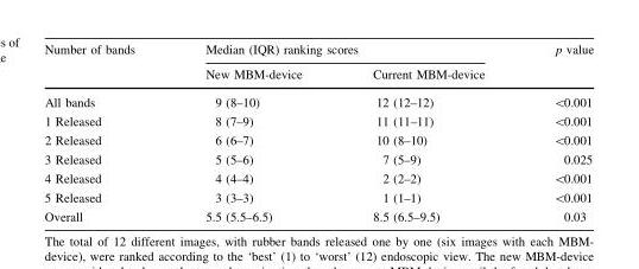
<table><thead><tr><td rowspan="2">Number of bands</td><td colspan="2">Median (IQR) ranking scores</td><td rowspan="2">p value</td></tr><tr><td>New MBM-device</td><td>Current MBM-device</td></tr></thead><tbody><tr><td>All bands</td><td>9 (8–10)</td><td>12 (12–12)</td><td>&lt;0.001</td></tr><tr><td>1 Released</td><td>8 (7–9)</td><td>11 (11–11)</td><td>&lt;0.001</td></tr><tr><td>2 Released</td><td>6 (6–7)</td><td>10 (8–10)</td><td>&lt;0.001</td></tr><tr><td>3 Released</td><td>5 (5–6)</td><td>7 (5–9)</td><td>0.025</td></tr><tr><td>4 Released</td><td>4 (4–4)</td><td>2 (2–2)</td><td>&lt;0.001</td></tr><tr><td>5 Released</td><td>3 (3–3)</td><td>1 (1–1)</td><td>&lt;0.001</td></tr><tr><td>Overall</td><td>5.5 (5.5–6.5)</td><td>8.5 (6.5–9.5)</td><td>0.03</td></tr></tbody></table>